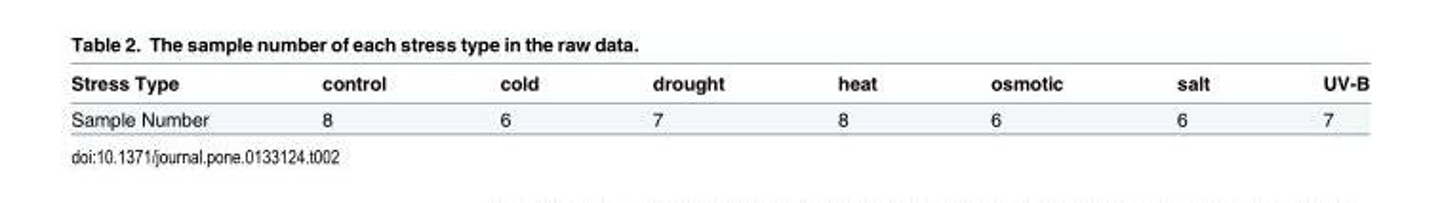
<table><thead><tr><td>Stress Type</td><td>control</td><td>cold</td><td>drought</td><td>heat</td><td>osmotic</td><td>salt</td><td>UV-B</td></tr></thead><tbody><tr><td>Sample Number</td><td>8</td><td>6</td><td>7</td><td>8</td><td>6</td><td>6</td><td>7</td></tr></tbody></table>